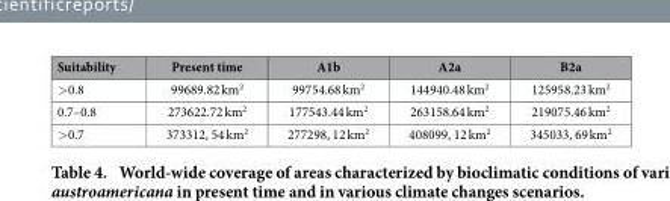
<table><thead><tr><td>Suitability</td><td>Present time</td><td>A1b</td><td>A2a</td><td>B2a</td></tr></thead><tbody><tr><td>&gt; 0.8</td><td>99689.82 km<sup>2</sup></td><td>99754.68 km<sup>2</sup></td><td>144940.48 km<sup>2</sup></td><td>125958.23 km<sup>2</sup></td></tr><tr><td>0.7–0.8</td><td>273622.72 km<sup>2</sup></td><td>177543.44 km<sup>2</sup></td><td>263158.64 km<sup>2</sup></td><td>219075.46 km<sup>2</sup></td></tr><tr><td>&gt; 0.7</td><td>373312, 54 km<sup>2</sup></td><td>277298, 12 km<sup>2</sup></td><td>408099, 12 km<sup>2</sup></td><td>345033, 69 km<sup>2</sup></td></tr></tbody></table>